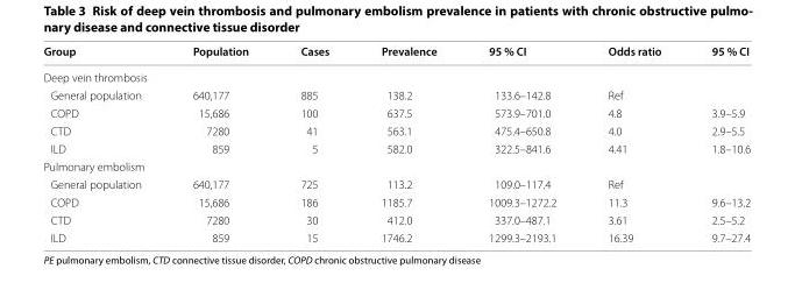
<table><thead><tr><td>Group</td><td>Population</td><td>Cases</td><td>Prevalence</td><td>95 % CI</td><td>Odds ratio</td><td>95 % CI</td></tr></thead><tbody><tr><td colspan="7">Deep vein thrombosis</td></tr><tr><td>General population</td><td>640,177</td><td>885</td><td>138.2</td><td>133.6–142.8</td><td>Ref</td><td></td></tr><tr><td>COPD</td><td>15,686</td><td>100</td><td>637.5</td><td>573.9–701.0</td><td>4.8</td><td>3.9–5.9</td></tr><tr><td>CTD</td><td>7280</td><td>41</td><td>563.1</td><td>475.4–650.8</td><td>4.0</td><td>2.9–5.5</td></tr><tr><td>ILD</td><td>859</td><td>5</td><td>582.0</td><td>322.5–841.6</td><td>4.41</td><td>1.8–10.6</td></tr><tr><td colspan="7">Pulmonary embolism</td></tr><tr><td>General population</td><td>640,177</td><td>725</td><td>113.2</td><td>109.0–117.4</td><td>Ref</td><td></td></tr><tr><td>COPD</td><td>15,686</td><td>186</td><td>1185.7</td><td>1009.3–1272.2</td><td>11.3</td><td>9.6–13.2</td></tr><tr><td>CTD</td><td>7280</td><td>30</td><td>412.0</td><td>337.0–487.1</td><td>3.61</td><td>2.5–5.2</td></tr><tr><td>ILD</td><td>859</td><td>15</td><td>1746.2</td><td>1299.3–2193.1</td><td>16.39</td><td>9.7–27.4</td></tr></tbody></table>